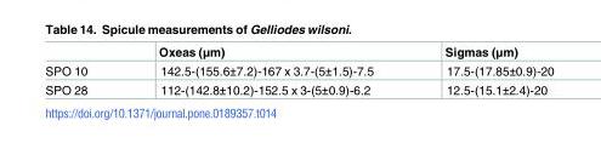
<table><thead><tr><td></td><td>Oxeas (μm)</td><td>Sigmas (μm)</td></tr></thead><tbody><tr><td>SPO 10</td><td>142.5-(155.6±7.2)-167 x 3.7-(5±1.5)-7.5</td><td>17.5-(17.85±0.9)-20</td></tr><tr><td>SPO 28</td><td>112-(142.8±10.2)-152.5 x 3-(5±0.9)-6.2</td><td>12.5-(15.1±2.4)-20</td></tr></tbody></table>